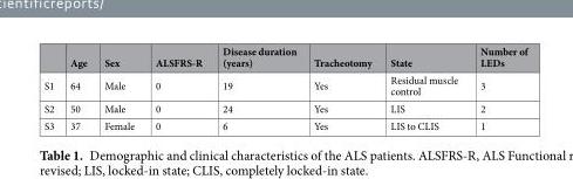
<table><thead><tr><td></td><td>Age</td><td>Sex</td><td>ALSFRS-R</td><td>Disease duration (years)</td><td>Tracheotomy</td><td>State</td><td>Number of LEDs</td></tr></thead><tbody><tr><td>S1</td><td>64</td><td>Male</td><td>0</td><td>19</td><td>Yes</td><td>Residual muscle control</td><td>3</td></tr><tr><td>S2</td><td>50</td><td>Male</td><td>0</td><td>24</td><td>Yes</td><td>LIS</td><td>2</td></tr><tr><td>S3</td><td>37</td><td>Female</td><td>0</td><td>6</td><td>Yes</td><td>LIS to CLIS</td><td>1</td></tr></tbody></table>